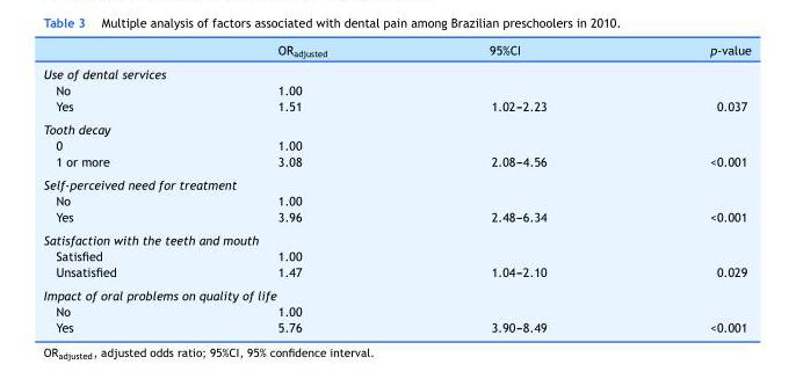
<table><thead><tr><td></td><td>OR<sub>adjusted</sub></td><td>95%CI</td><td>p-value</td></tr></thead><tbody><tr><td colspan="4">Use of dental services</td></tr><tr><td>No</td><td>1.00</td><td></td><td></td></tr><tr><td>Yes</td><td>1.51</td><td>1.02---2.23</td><td>0.037</td></tr><tr><td colspan="4">Tooth decay</td></tr><tr><td>0</td><td>1.00</td><td></td><td></td></tr><tr><td>1 or more</td><td>3.08</td><td>2.08---4.56</td><td>&lt;0.001</td></tr><tr><td colspan="4">Self-perceived need for treatment</td></tr><tr><td>No</td><td>1.00</td><td></td><td></td></tr><tr><td>Yes</td><td>3.96</td><td>2.48---6.34</td><td>&lt;0.001</td></tr><tr><td colspan="4">Satisfaction with the teeth and mouth</td></tr><tr><td>Satisfied</td><td>1.00</td><td></td><td></td></tr><tr><td>Unsatisfied</td><td>1.47</td><td>1.04---2.10</td><td>0.029</td></tr><tr><td colspan="4">Impact of oral problems on quality of life</td></tr><tr><td>No</td><td>1.00</td><td></td><td></td></tr><tr><td>Yes</td><td>5.76</td><td>3.90---8.49</td><td>&lt;0.001</td></tr></tbody></table>